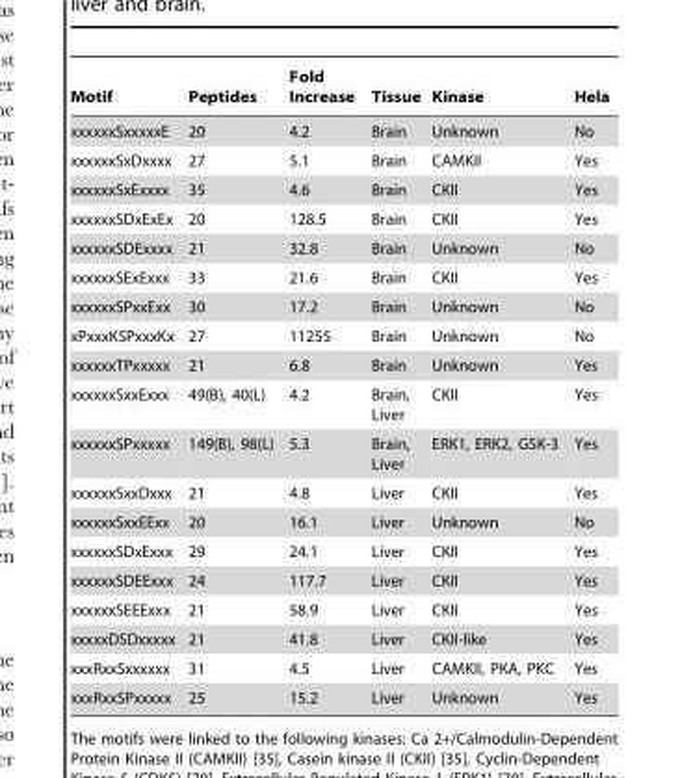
<table><thead><tr><td>Motif</td><td>Peptides</td><td>Fold Increase</td><td>Tissue</td><td>Kinase</td><td>Hela</td></tr></thead><tbody><tr><td>xxxxxxSxxxxxE</td><td>20</td><td>4.2</td><td>Brain</td><td>Unknown</td><td>No</td></tr><tr><td>xxxxxxSxDxxxx</td><td>27</td><td>5.1</td><td>Brain</td><td>CAMKII</td><td>Yes</td></tr><tr><td>xxxxxxSxExxxx</td><td>35</td><td>4.6</td><td>Brain</td><td>CKII</td><td>Yes</td></tr><tr><td>xxxxxxSDxExEx</td><td>20</td><td>128.5</td><td>Brain</td><td>CKII</td><td>Yes</td></tr><tr><td>xxxxxxSDExxxx</td><td>21</td><td>32.8</td><td>Brain</td><td>Unknown</td><td>No</td></tr><tr><td>xxxxxxSExExxx</td><td>33</td><td>21.6</td><td>Brain</td><td>CKII</td><td>Yes</td></tr><tr><td>xxxxxxSPxxExx</td><td>30</td><td>17.2</td><td>Brain</td><td>Unknown</td><td>No</td></tr><tr><td>xPxxxKSPxxxKx</td><td>27</td><td>11255</td><td>Brain</td><td>Unknown</td><td>No</td></tr><tr><td>xxxxxxTPxxxxx</td><td>21</td><td>6.8</td><td>Brain</td><td>Unknown</td><td>Yes</td></tr><tr><td>xxxxxxSxxExxx</td><td>49(B), 40(L)</td><td>4.2</td><td>Brain, Liver</td><td>CKII</td><td>Yes</td></tr><tr><td>xxxxxxSPxxxxx</td><td>149(B), 98(L)</td><td>5.3</td><td>Brain, Liver</td><td>ERK1, ERK2, GSK-3</td><td>Yes</td></tr><tr><td>xxxxxxSxxDxxx</td><td>21</td><td>4.8</td><td>Liver</td><td>CKII</td><td>Yes</td></tr><tr><td>xxxxxxSxxEExx</td><td>20</td><td>16.1</td><td>Liver</td><td>Unknown</td><td>No</td></tr><tr><td>xxxxxxSDxExxx</td><td>29</td><td>24.1</td><td>Liver</td><td>CKII</td><td>Yes</td></tr><tr><td>xxxxxxSDEExxx</td><td>24</td><td>117.7</td><td>Liver</td><td>CKII</td><td>Yes</td></tr><tr><td>xxxxxxSEEExxx</td><td>21</td><td>58.9</td><td>Liver</td><td>CKII</td><td>Yes</td></tr><tr><td>xxxxxDSDxxxxx</td><td>21</td><td>41.8</td><td>Liver</td><td>CKII-like</td><td>Yes</td></tr><tr><td>xxxRxxSxxxxxx</td><td>31</td><td>4.5</td><td>Liver</td><td>CAMKII, PKA, PKC</td><td>Yes</td></tr><tr><td>xxxRxxSPxxxxx</td><td>25</td><td>15.2</td><td>Liver</td><td>Unknown</td><td>Yes</td></tr></tbody></table>